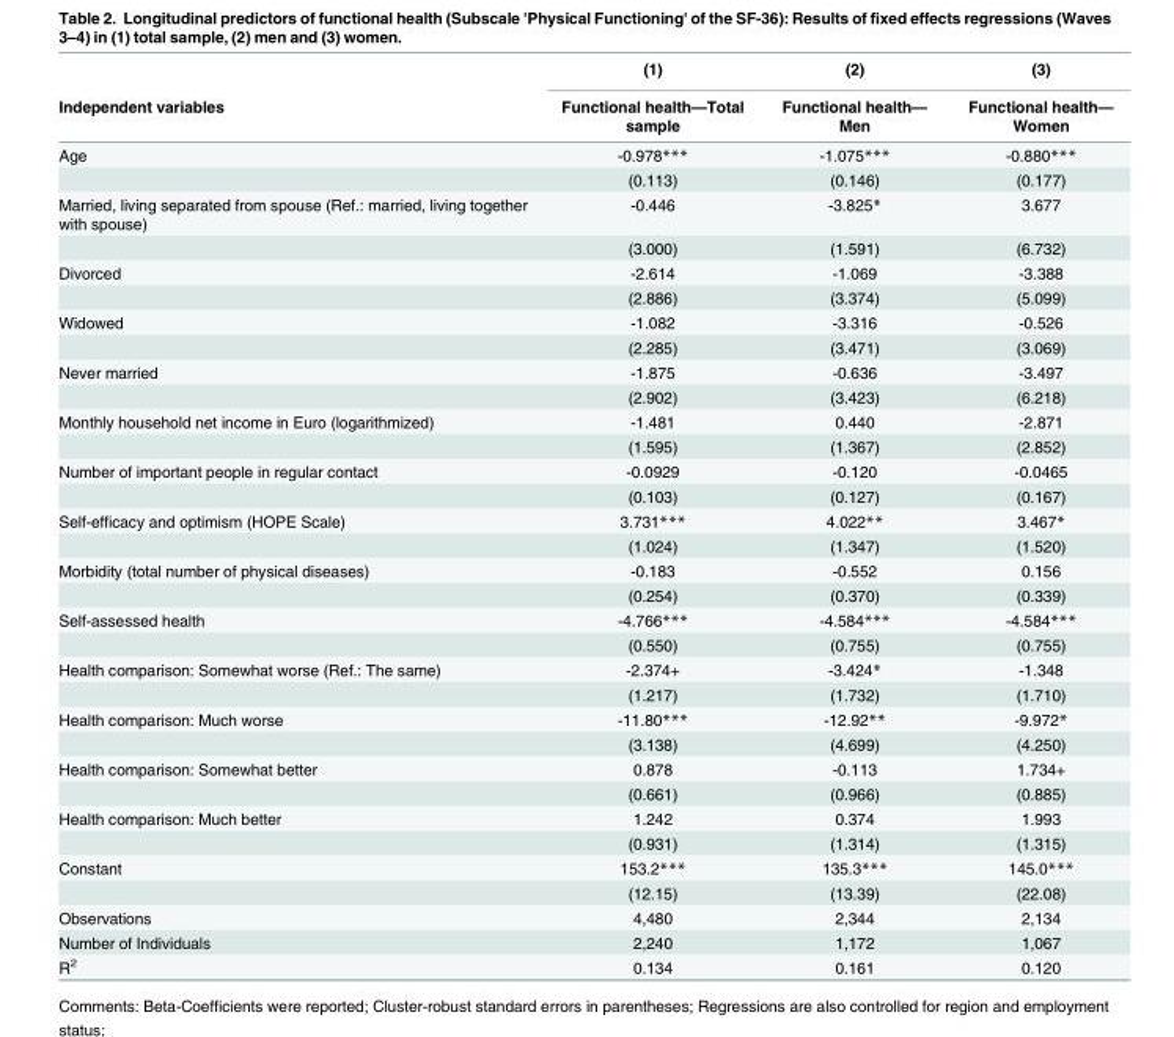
<table><thead><tr><td rowspan="2">Independent variables</td><td rowspan="2">(1) Functional health—Total sample</td><td rowspan="2">(2) Functional health— Men</td><td rowspan="2">(3) Functional health— Women</td></tr><tr></tr></thead><tbody><tr><td rowspan="2">Age</td><td>-0.978***</td><td>-1.075***</td><td>-0.880***</td></tr><tr><td>(0.113)</td><td>(0.146)</td><td>(0.177)</td></tr><tr><td rowspan="2">Married, living separated from spouse (Ref.: married, living together with spouse)</td><td>-0.446</td><td>-3.825*</td><td>3.677</td></tr><tr><td>(3.000)</td><td>(1.591)</td><td>(6.732)</td></tr><tr><td rowspan="2">Divorced</td><td>-2.614</td><td>-1.069</td><td>-3.388</td></tr><tr><td>(2.886)</td><td>(3.374)</td><td>(5.099)</td></tr><tr><td rowspan="2">Widowed</td><td>-1.082</td><td>-3.316</td><td>-0.526</td></tr><tr><td>(2.285)</td><td>(3.471)</td><td>(3.069)</td></tr><tr><td rowspan="2">Never married</td><td>-1.875</td><td>-0.636</td><td>-3.497</td></tr><tr><td>(2.902)</td><td>(3.423)</td><td>(6.218)</td></tr><tr><td rowspan="2">Monthly household net income in Euro (logarithmized)</td><td>-1.481</td><td>0.440</td><td>-2.871</td></tr><tr><td>(1.595)</td><td>(1.367)</td><td>(2.852)</td></tr><tr><td rowspan="2">Number of important people in regular contact</td><td>-0.0929</td><td>-0.120</td><td>-0.0465</td></tr><tr><td>(0.103)</td><td>(0.127)</td><td>(0.167)</td></tr><tr><td rowspan="2">Self-efficacy and optimism (HOPE Scale)</td><td>3.731***</td><td>4.022**</td><td>3.467*</td></tr><tr><td>(1.024)</td><td>(1.347)</td><td>(1.520)</td></tr><tr><td rowspan="2">Morbidity (total number of physical diseases)</td><td>-0.183</td><td>-0.552</td><td>0.156</td></tr><tr><td>(0.254)</td><td>(0.370)</td><td>(0.339)</td></tr><tr><td rowspan="2">Self-assessed health</td><td>-4.766***</td><td>-4.584***</td><td>-4.584***</td></tr><tr><td>(0.550)</td><td>(0.755)</td><td>(0.755)</td></tr><tr><td rowspan="2">Health comparison: Somewhat worse (Ref.: The same)</td><td>-2.374+</td><td>-3.424*</td><td>-1.348</td></tr><tr><td>(1.217)</td><td>(1.732)</td><td>(1.710)</td></tr><tr><td rowspan="2">Health comparison: Much worse</td><td>-11.80***</td><td>-12.92**</td><td>-9.972*</td></tr><tr><td>(3.138)</td><td>(4.699)</td><td>(4.250)</td></tr><tr><td rowspan="2">Health comparison: Somewhat better</td><td>0.878</td><td>-0.113</td><td>1.734+</td></tr><tr><td>(0.661)</td><td>(0.966)</td><td>(0.885)</td></tr><tr><td rowspan="2">Health comparison: Much better</td><td>1.242</td><td>0.374</td><td>1.993</td></tr><tr><td>(0.931)</td><td>(1.314)</td><td>(1.315)</td></tr><tr><td rowspan="2">Constant</td><td>153.2***</td><td>135.3***</td><td>145.0***</td></tr><tr><td>(12.15)</td><td>(13.39)</td><td>(22.08)</td></tr><tr><td>Observations</td><td>4,480</td><td>2,344</td><td>2,134</td></tr><tr><td>Number of Individuals</td><td>2,240</td><td>1,172</td><td>1,067</td></tr><tr><td>R<sup>2</sup></td><td>0.134</td><td>0.161</td><td>0.120</td></tr></tbody></table>